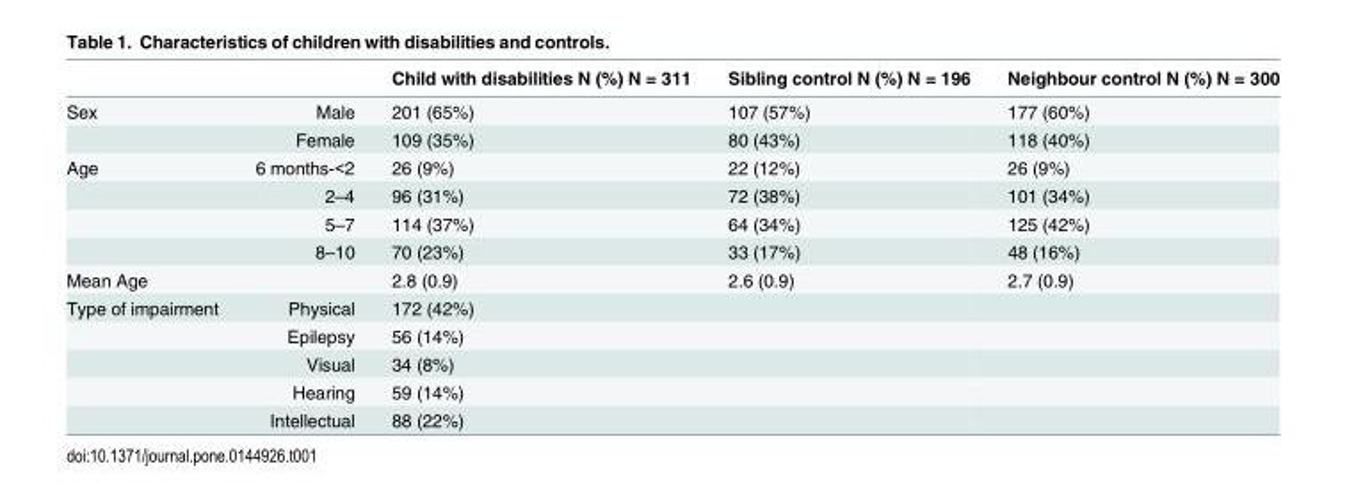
<table><thead><tr><td></td><td></td><td>Child with disabilities N (%) N = 311</td><td>Sibling control N (%) N = 196</td><td>Neighbour control N (%) N = 300</td></tr></thead><tbody><tr><td rowspan="2">Sex</td><td>Male</td><td>201 (65%)</td><td>107 (57%)</td><td>177 (60%)</td></tr><tr><td>Female</td><td>109 (35%)</td><td>80 (43%)</td><td>118 (40%)</td></tr><tr><td rowspan="4">Age</td><td>6 months-&lt;2</td><td>26 (9%)</td><td>22 (12%)</td><td>26 (9%)</td></tr><tr><td>2–4</td><td>96 (31%)</td><td>72 (38%)</td><td>101 (34%)</td></tr><tr><td>5–7</td><td>114 (37%)</td><td>64 (34%)</td><td>125 (42%)</td></tr><tr><td>8–10</td><td>70 (23%)</td><td>33 (17%)</td><td>48 (16%)</td></tr><tr><td>Mean Age</td><td></td><td>2.8 (0.9)</td><td>2.6 (0.9)</td><td>2.7 (0.9)</td></tr><tr><td rowspan="5">Type of impairment</td><td>Physical</td><td>172 (42%)</td><td></td><td></td></tr><tr><td>Epilepsy</td><td>56 (14%)</td><td></td><td></td></tr><tr><td>Visual</td><td>34 (8%)</td><td></td><td></td></tr><tr><td>Hearing</td><td>59 (14%)</td><td></td><td></td></tr><tr><td>Intellectual</td><td>88 (22%)</td><td></td><td></td></tr></tbody></table>